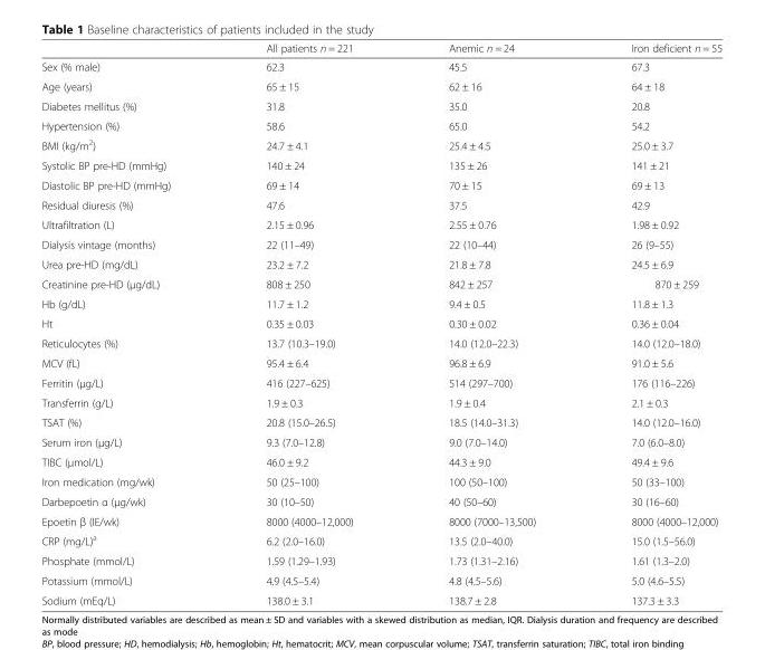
<table><thead><tr><td></td><td>All patients n = 221</td><td>Anemic n = 24</td><td>Iron deficient n = 55</td></tr></thead><tbody><tr><td>Sex (% male)</td><td>62.3</td><td>45.5</td><td>67.3</td></tr><tr><td>Age (years)</td><td>65 ± 15</td><td>62 ± 16</td><td>64 ± 18</td></tr><tr><td>Diabetes mellitus (%)</td><td>31.8</td><td>35.0</td><td>20.8</td></tr><tr><td>Hypertension (%)</td><td>58.6</td><td>65.0</td><td>54.2</td></tr><tr><td>BMI (kg/m<sup>2</sup>)</td><td>24.7 ± 4.1</td><td>25.4 ± 4.5</td><td>25.0 ± 3.7</td></tr><tr><td>Systolic BP pre-HD (mmHg)</td><td>140 ± 24</td><td>135 ± 26</td><td>141 ± 21</td></tr><tr><td>Diastolic BP pre-HD (mmHg)</td><td>69 ± 14</td><td>70 ± 15</td><td>69 ± 13</td></tr><tr><td>Residual diuresis (%)</td><td>47.6</td><td>37.5</td><td>42.9</td></tr><tr><td>Ultrafiltration (L)</td><td>2.15 ± 0.96</td><td>2.55 ± 0.76</td><td>1.98 ± 0.92</td></tr><tr><td>Dialysis vintage (months)</td><td>22 (11–49)</td><td>22 (10–44)</td><td>26 (9–55)</td></tr><tr><td>Urea pre-HD (mg/dL)</td><td>23.2 ± 7.2</td><td>21.8 ± 7.8</td><td>24.5 ± 6.9</td></tr><tr><td>Creatinine pre-HD (μg/dL)</td><td>808 ± 250</td><td>842 ± 257</td><td>870 ± 259</td></tr><tr><td>Hb (g/dL)</td><td>11.7 ± 1.2</td><td>9.4 ± 0.5</td><td>11.8 ± 1.3</td></tr><tr><td>Ht</td><td>0.35 ± 0.03</td><td>0.30 ± 0.02</td><td>0.36 ± 0.04</td></tr><tr><td>Reticulocytes (%)</td><td>13.7 (10.3–19.0)</td><td>14.0 (12.0–22.3)</td><td>14.0 (12.0–18.0)</td></tr><tr><td>MCV (fL)</td><td>95.4 ± 6.4</td><td>96.8 ± 6.9</td><td>91.0 ± 5.6</td></tr><tr><td>Ferritin (μg/L)</td><td>416 (227–625)</td><td>514 (297–700)</td><td>176 (116–226)</td></tr><tr><td>Transferrin (g/L)</td><td>1.9 ± 0.3</td><td>1.9 ± 0.4</td><td>2.1 ± 0.3</td></tr><tr><td>TSAT (%)</td><td>20.8 (15.0–26.5)</td><td>18.5 (14.0–31.3)</td><td>14.0 (12.0–16.0)</td></tr><tr><td>Serum iron (μg/L)</td><td>9.3 (7.0–12.8)</td><td>9.0 (7.0–14.0)</td><td>7.0 (6.0–8.0)</td></tr><tr><td>TIBC (μmol/L)</td><td>46.0 ± 9.2</td><td>44.3 ± 9.0</td><td>49.4 ± 9.6</td></tr><tr><td>Iron medication (mg/wk)</td><td>50 (25–100)</td><td>100 (50–100)</td><td>50 (33–100)</td></tr><tr><td>Darbepoetin α (μg/wk)</td><td>30 (10–50)</td><td>40 (50–60)</td><td>30 (16–60)</td></tr><tr><td>Epoetin β (IE/wk)</td><td>8000 (4000–12,000)</td><td>8000 (7000–13,500)</td><td>8000 (4000–12,000)</td></tr><tr><td>CRP (mg/L)<sup>a</sup></td><td>6.2 (2.0–16.0)</td><td>13.5 (2.0–40.0)</td><td>15.0 (1.5–56.0)</td></tr><tr><td>Phosphate (mmol/L)</td><td>1.59 (1.29–1.93)</td><td>1.73 (1.31–2.16)</td><td>1.61 (1.3–2.0)</td></tr><tr><td>Potassium (mmol/L)</td><td>4.9 (4.5–5.4)</td><td>4.8 (4.5–5.6)</td><td>5.0 (4.6–5.5)</td></tr><tr><td>Sodium (mEq/L)</td><td>138.0 ± 3.1</td><td>138.7 ± 2.8</td><td>137.3 ± 3.3</td></tr></tbody></table>